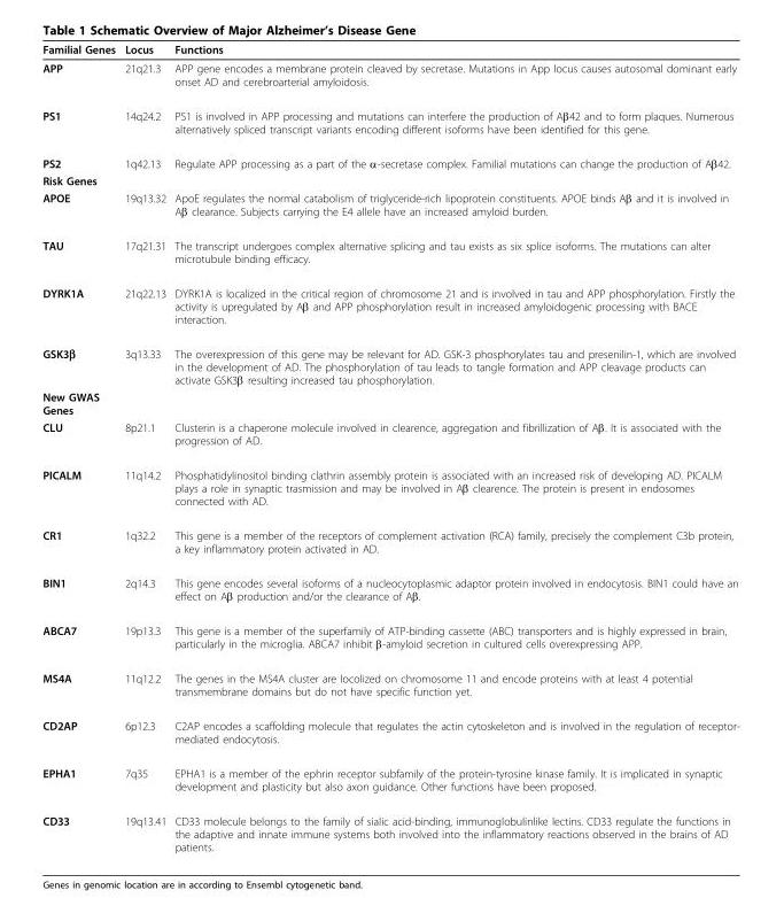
<table><thead><tr><td>Familial Genes</td><td>Locus</td><td>Functions</td></tr></thead><tbody><tr><td>APP</td><td>21q21.3</td><td>APP gene encodes a membrane protein cleaved by secretase. Mutations in App locus causes autosomal dominant early onset AD and cerebroarterial amyloidosis.</td></tr><tr><td>PS1</td><td>14q24.2</td><td>PS1 is involved in APP processing and mutations can interfere the production of Aβ42 and to form plaques. Numerous alternatively spliced transcript variants encoding different isoforms have been identified for this gene.</td></tr><tr><td>PS2</td><td>1q42.13</td><td>Regulate APP processing as a part of the α-secretase complex. Familial mutations can change the production of Aβ42.</td></tr><tr><td colspan="3">Risk Genes</td></tr><tr><td>APOE</td><td>19q13.32</td><td>ApoE regulates the normal catabolism of triglyceride-rich lipoprotein constituents. APOE binds Aβ and it is involved in Aβ clearance. Subjects carrying the E4 allele have an increased amyloid burden.</td></tr><tr><td>TAU</td><td>17q21.31</td><td>The transcript undergoes complex alternative splicing and tau exists as six splice isoforms. The mutations can alter microtubule binding efficacy.</td></tr><tr><td>DYRK1A</td><td>21q22.13</td><td>DYRK1A is localized in the critical region of chromosome 21 and is involved in tau and APP phosphorylation. Firstly the activity is upregulated by Aβ and APP phosphorylation result in increased amyloidogenic processing with BACE interaction.</td></tr><tr><td>GSK3β</td><td>3q13.33</td><td>The overexpression of this gene may be relevant for AD. GSK-3 phosphorylates tau and presenilin-1, which are involved in the development of AD. The phosphorylation of tau leads to tangle formation and APP cleavage products can activate GSK3β resulting increased tau phosphorylation.</td></tr><tr><td colspan="3">New GWAS Genes</td></tr><tr><td>CLU</td><td>8p21.1</td><td>Clusterin is a chaperone molecule involved in clearence, aggregation and fibrillization of Aβ. It is associated with the progression of AD.</td></tr><tr><td>PICALM</td><td>11q14.2</td><td>Phosphatidylinositol binding clathrin assembly protein is associated with an increased risk of developing AD. PICALM plays a role in synaptic trasmission and may be involved in Aβ clearence. The protein is present in endosomes connected with AD.</td></tr><tr><td>CR1</td><td>1q32.2</td><td>This gene is a member of the receptors of complement activation (RCA) family, precisely the complement C3b protein, a key inflammatory protein activated in AD.</td></tr><tr><td>BIN1</td><td>2q14.3</td><td>This gene encodes several isoforms of a nucleocytoplasmic adaptor protein involved in endocytosis. BIN1 could have an effect on Aβ production and/or the clearance of Aβ.</td></tr><tr><td>ABCA7</td><td>19p13.3</td><td>This gene is a member of the superfamily of ATP-binding cassette (ABC) transporters and is highly expressed in brain, particularly in the microglia. ABCA7 inhibit β-amyloid secretion in cultured cells overexpressing APP.</td></tr><tr><td>MS4A</td><td>11q12.2</td><td>The genes in the MS4A cluster are locolized on chromosome 11 and encode proteins with at least 4 potential transmembrane domains but do not have specific function yet.</td></tr><tr><td>CD2AP</td><td>6p12.3</td><td>C2AP encodes a scaffolding molecule that regulates the actin cytoskeleton and is involved in the regulation of receptor- mediated endocytosis.</td></tr><tr><td>EPHA1</td><td>7q35</td><td>EPHA1 is a member of the ephrin receptor subfamily of the protein-tyrosine kinase family. It is implicated in synaptic development and plasticity but also axon guidance. Other functions have been proposed.</td></tr><tr><td>CD33</td><td>19q13.41</td><td>CD33 molecule belongs to the family of sialic acid-binding, immunoglobulinlike lectins. CD33 regulate the functions in the adaptive and innate immune systems both involved into the inflammatory reactions observed in the brains of AD patients.</td></tr></tbody></table>